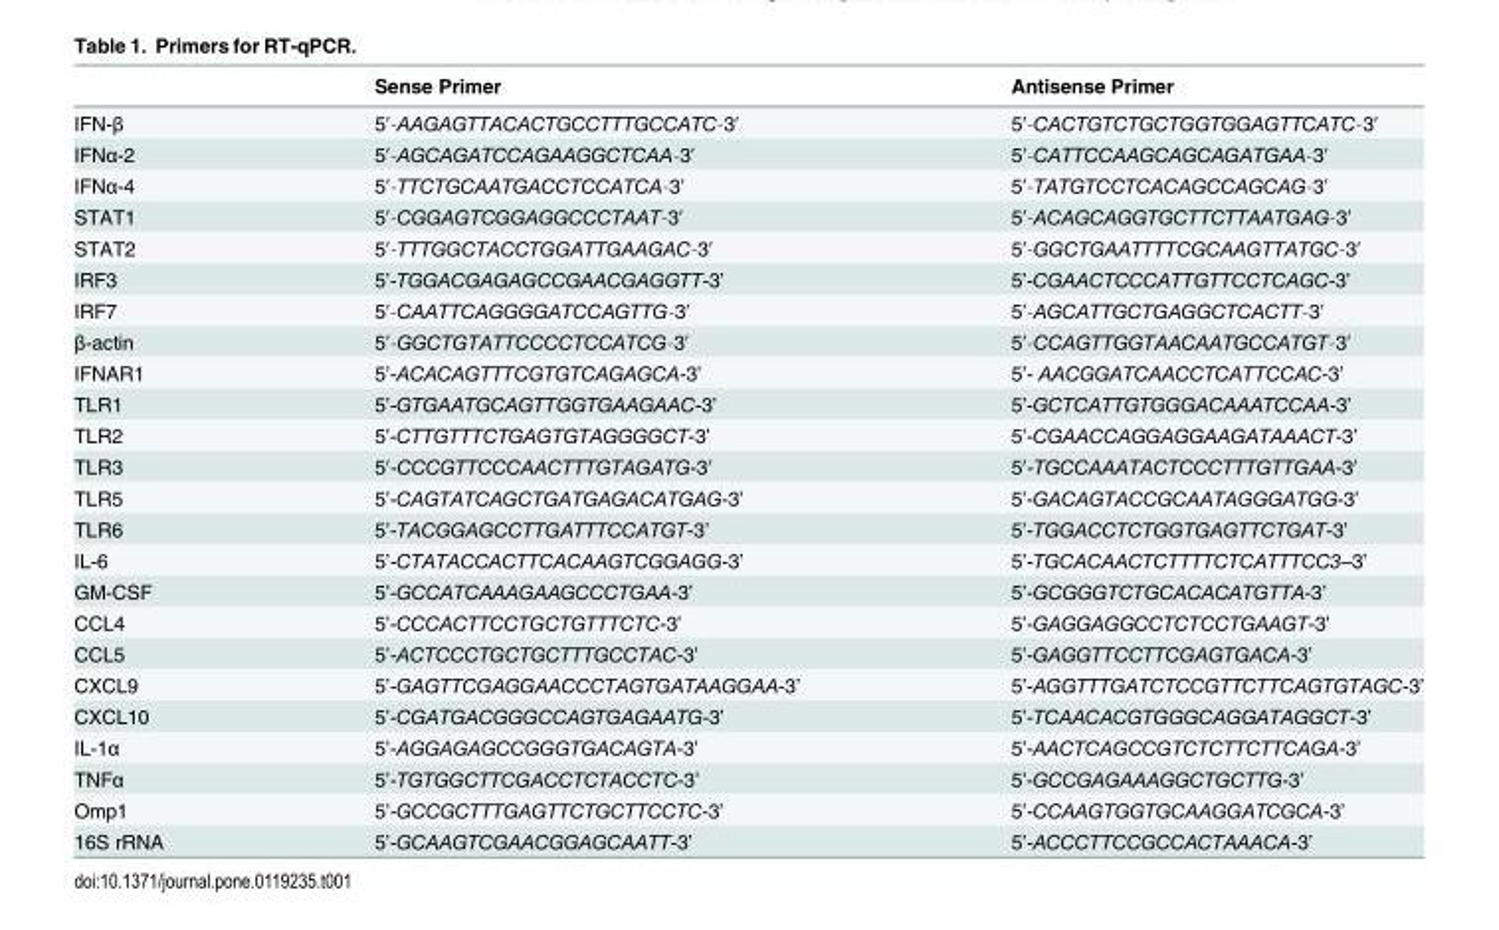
<table><thead><tr><td></td><td>Sense Primer</td><td>Antisense Primer</td></tr></thead><tbody><tr><td>IFN-β</td><td>5ʹ˗AAGAGTTACACTGCCTTTGCCATC˗3ʹ</td><td>5ʹ˗CACTGTCTGCTGGTGGAGTTCATC˗3ʹ</td></tr><tr><td>IFNα-2</td><td>5ʹ˗AGCAGATCCAGAAGGCTCAA˗3ʹ</td><td>5ʹ˗CATTCCAAGCAGCAGATGAA˗3ʹ</td></tr><tr><td>IFNα-4</td><td>5ʹ˗TTCTGCAATGACCTCCATCA˗3ʹ</td><td>5ʹ˗TATGTCCTCACAGCCAGCAG˗3ʹ</td></tr><tr><td>STAT1</td><td>5ʹ˗CGGAGTCGGAGGCCCTAAT˗3ʹ</td><td>5ʹ˗ACAGCAGGTGCTTCTTAATGAG˗3ʹ</td></tr><tr><td>STAT2</td><td>5ʹ˗TTTGGCTACCTGGATTGAAGAC˗3ʹ</td><td>5ʹ˗GGCTGAATTTTCGCAAGTTATGC˗3ʹ</td></tr><tr><td>IRF3</td><td>5’-TGGACGAGAGCCGAACGAGGTT-3’</td><td>5’-CGAACTCCCATTGTTCCTCAGC-3’</td></tr><tr><td>IRF7</td><td>5ʹ˗CAATTCAGGGGATCCAGTTG˗3ʹ</td><td>5ʹ˗AGCATTGCTGAGGCTCACTT˗3ʹ</td></tr><tr><td>β-actin</td><td>5ʹ˗GGCTGTATTCCCCTCCATCG˗3ʹ</td><td>5ʹ˗CCAGTTGGTAACAATGCCATGT˗3ʹ</td></tr><tr><td>IFNAR1</td><td>5’-ACACAGTTTCGTGTCAGAGCA-3’</td><td>5’- AACGGATCAACCTCATTCCAC-3’</td></tr><tr><td>TLR1</td><td>5’-GTGAATGCAGTTGGTGAAGAAC-3’</td><td>5’-GCTCATTGTGGGACAAATCCAA-3’</td></tr><tr><td>TLR2</td><td>5’-CTTGTTTCTGAGTGTAGGGGCT-3’</td><td>5’-CGAACCAGGAGGAAGATAAACT-3’</td></tr><tr><td>TLR3</td><td>5′-CCCGTTCCCAACTTTGTAGATG-3′</td><td>5′-TGCCAAATACTCCCTTTGTTGAA-3′</td></tr><tr><td>TLR5</td><td>5’-CAGTATCAGCTGATGAGACATGAG-3’</td><td>5’-GACAGTACCGCAATAGGGATGG-3’</td></tr><tr><td>TLR6</td><td>5’-TACGGAGCCTTGATTTCCATGT-3’</td><td>5’-TGGACCTCTGGTGAGTTCTGAT-3’</td></tr><tr><td>IL-6</td><td>5’-CTATACCACTTCACAAGTCGGAGG-3’</td><td>5’-TGCACAACTCTTTTCTCATTTCC3–3’</td></tr><tr><td>GM-CSF</td><td>5’-GCCATCAAAGAAGCCCTGAA-3’</td><td>5’-GCGGGTCTGCACACATGTTA-3’</td></tr><tr><td>CCL4</td><td>5’-CCCACTTCCTGCTGTTTCTC-3’</td><td>5’-GAGGAGGCCTCTCCTGAAGT-3’</td></tr><tr><td>CCL5</td><td>5’-ACTCCCTGCTGCTTTGCCTAC-3’</td><td>5’-GAGGTTCCTTCGAGTGACA-3’</td></tr><tr><td>CXCL9</td><td>5’-GAGTTCGAGGAACCCTAGTGATAAGGAA-3’</td><td>5’-AGGTTTGATCTCCGTTCTTCAGTGTAGC-3’</td></tr><tr><td>CXCL10</td><td>5’-CGATGACGGGCCAGTGAGAATG-3’</td><td>5’-TCAACACGTGGGCAGGATAGGCT-3’</td></tr><tr><td>IL-1α</td><td>5’-AGGAGAGCCGGGTGACAGTA-3’</td><td>5’-AACTCAGCCGTCTCTTCTTCAGA-3’</td></tr><tr><td>TNFα</td><td>5’-TGTGGCTTCGACCTCTACCTC-3’</td><td>5’-GCCGAGAAAGGCTGCTTG-3’</td></tr><tr><td>Omp1</td><td>5’-GCCGCTTTGAGTTCTGCTTCCTC-3’</td><td>5’-CCAAGTGGTGCAAGGATCGCA-3’</td></tr><tr><td>16S rRNA</td><td>5’-GCAAGTCGAACGGAGCAATT-3’</td><td>5’-ACCCTTCCGCCACTAAACA-3’</td></tr></tbody></table>